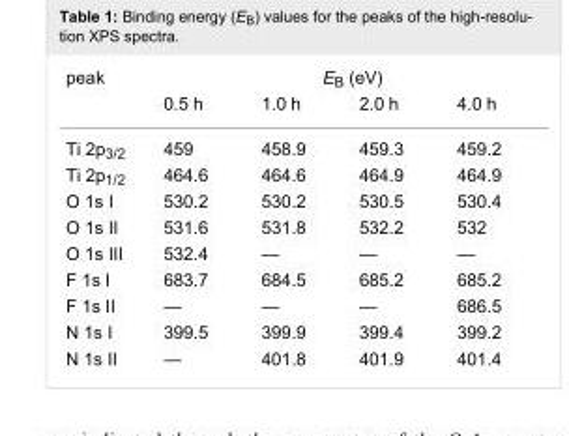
<table><tbody><tr><td rowspan="2">peak</td><td colspan="4">E<sub>B</sub> (eV)</td></tr><tr><td>0.5 h</td><td>1.0 h</td><td>2.0 h</td><td>4.0 h</td></tr><tr><td>Ti 2p<sub>3/2</sub></td><td>459</td><td>458.9</td><td>459.3</td><td>459.2</td></tr><tr><td>Ti 2p<sub>1/2</sub></td><td>464.6</td><td>464.6</td><td>464.9</td><td>464.9</td></tr><tr><td>O 1s I</td><td>530.2</td><td>530.2</td><td>530.5</td><td>530.4</td></tr><tr><td>O 1s II</td><td>531.6</td><td>531.8</td><td>532.2</td><td>532</td></tr><tr><td>O 1s III</td><td>532.4</td><td>—</td><td>—</td><td>—</td></tr><tr><td>F 1s I</td><td>683.7</td><td>684.5</td><td>685.2</td><td>685.2</td></tr><tr><td>F 1s II</td><td>—</td><td>—</td><td>—</td><td>686.5</td></tr><tr><td>N 1s I</td><td>399.5</td><td>399.9</td><td>399.4</td><td>399.2</td></tr><tr><td>N 1s II</td><td>—</td><td>401.8</td><td>401.9</td><td>401.4</td></tr></tbody></table>